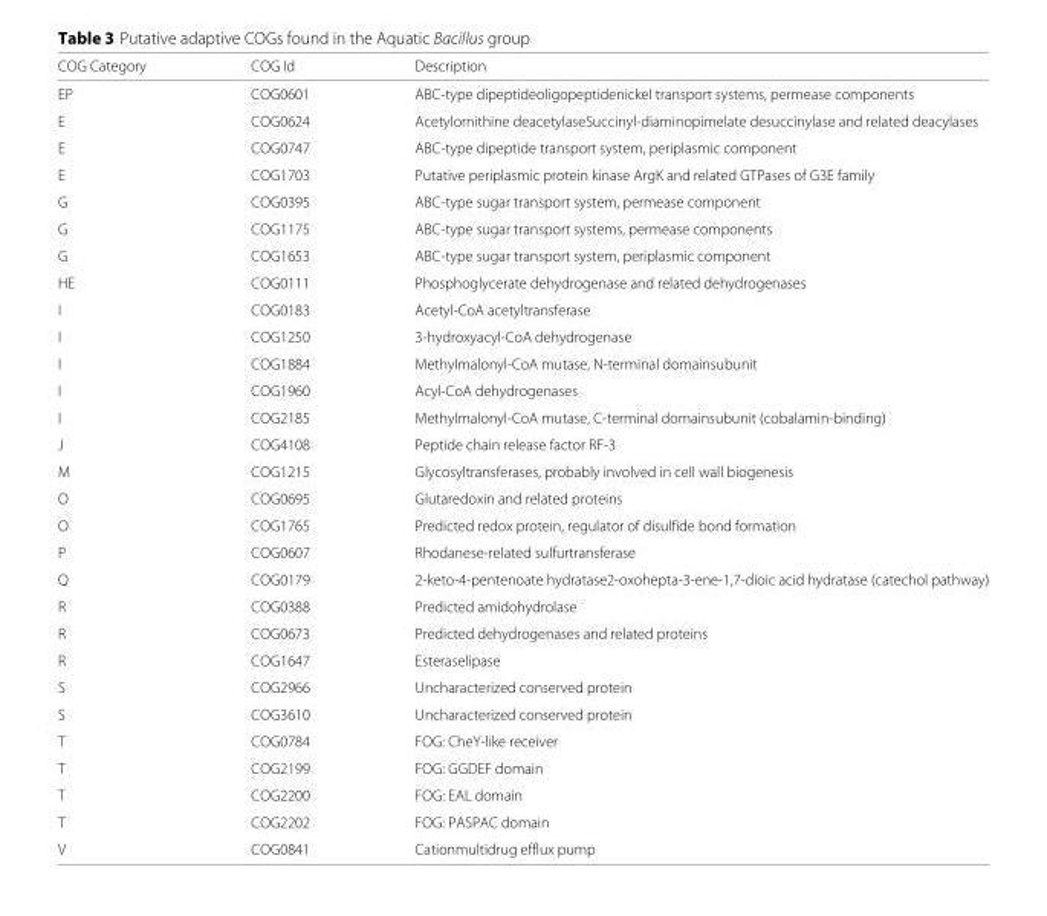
<table><thead><tr><td>COG Category</td><td>COG Id</td><td>Description</td></tr></thead><tbody><tr><td>EP</td><td>COG0601</td><td>ABC-type dipeptideoligopeptidenickel transport systems, permease components</td></tr><tr><td>E</td><td>COG0624</td><td>Acetylornithine deacetylaseSuccinyl-diaminopimelate desuccinylase and related deacylases</td></tr><tr><td>E</td><td>COG0747</td><td>ABC-type dipeptide transport system, periplasmic component</td></tr><tr><td>E</td><td>COG1703</td><td>Putative periplasmic protein kinase ArgK and related GTPases of G3E family</td></tr><tr><td>G</td><td>COG0395</td><td>ABC-type sugar transport system, permease component</td></tr><tr><td>G</td><td>COG1175</td><td>ABC-type sugar transport systems, permease components</td></tr><tr><td>G</td><td>COG1653</td><td>ABC-type sugar transport system, periplasmic component</td></tr><tr><td>HE</td><td>COG0111</td><td>Phosphoglycerate dehydrogenase and related dehydrogenases</td></tr><tr><td>I</td><td>COG0183</td><td>Acetyl-CoA acetyltransferase</td></tr><tr><td>I</td><td>COG1250</td><td>3-hydroxyacyl-CoA dehydrogenase</td></tr><tr><td>I</td><td>COG1884</td><td>Methylmalonyl-CoA mutase, N-terminal domainsubunit</td></tr><tr><td>I</td><td>COG1960</td><td>Acyl-CoA dehydrogenases</td></tr><tr><td>I</td><td>COG2185</td><td>Methylmalonyl-CoA mutase, C-terminal domainsubunit (cobalamin-binding)</td></tr><tr><td>J</td><td>COG4108</td><td>Peptide chain release factor RF-3</td></tr><tr><td>M</td><td>COG1215</td><td>Glycosyltransferases, probably involved in cell wall biogenesis</td></tr><tr><td>O</td><td>COG0695</td><td>Glutaredoxin and related proteins</td></tr><tr><td>O</td><td>COG1765</td><td>Predicted redox protein, regulator of disulfide bond formation</td></tr><tr><td>P</td><td>COG0607</td><td>Rhodanese-related sulfurtransferase</td></tr><tr><td>Q</td><td>COG0179</td><td>2-keto-4-pentenoate hydratase2-oxohepta-3-ene-1,7-dioic acid hydratase (catechol pathway)</td></tr><tr><td>R</td><td>COG0388</td><td>Predicted amidohydrolase</td></tr><tr><td>R</td><td>COG0673</td><td>Predicted dehydrogenases and related proteins</td></tr><tr><td>R</td><td>COG1647</td><td>Esteraselipase</td></tr><tr><td>S</td><td>COG2966</td><td>Uncharacterized conserved protein</td></tr><tr><td>S</td><td>COG3610</td><td>Uncharacterized conserved protein</td></tr><tr><td>T</td><td>COG0784</td><td>FOG: CheY-like receiver</td></tr><tr><td>T</td><td>COG2199</td><td>FOG: GGDEF domain</td></tr><tr><td>T</td><td>COG2200</td><td>FOG: EAL domain</td></tr><tr><td>T</td><td>COG2202</td><td>FOG: PASPAC domain</td></tr><tr><td>V</td><td>COG0841</td><td>Cationmultidrug efflux pump</td></tr></tbody></table>